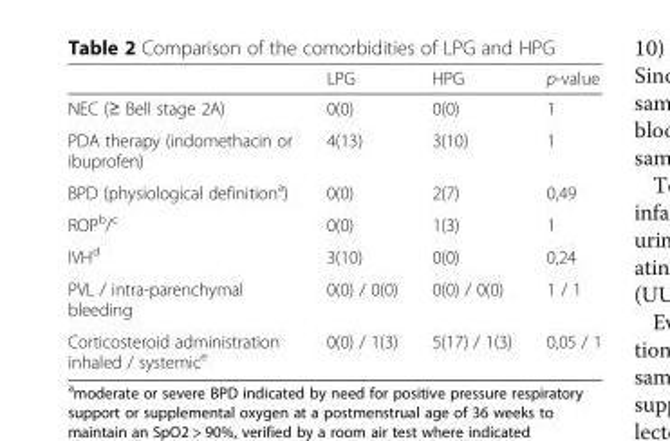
<table><thead><tr><td></td><td>LPG</td><td>HPG</td><td>p-value</td></tr></thead><tbody><tr><td>NEC (≥ Bell stage 2A)</td><td>0(0)</td><td>0(0)</td><td>1</td></tr><tr><td>PDA therapy (indomethacin or ibuprofen)</td><td>4(13)</td><td>3(10)</td><td>1</td></tr><tr><td>BPD (physiological definition<sup>a</sup>)</td><td>0(0)</td><td>2(7)</td><td>0,49</td></tr><tr><td>ROP<sup>b</sup>/<sup>c</sup></td><td>0(0)</td><td>1(3)</td><td>1</td></tr><tr><td>IVH<sup>d</sup></td><td>3(10)</td><td>0(0)</td><td>0,24</td></tr><tr><td>PVL / intra-parenchymal bleeding</td><td>0(0) / 0(0)</td><td>0(0) / 0(0)</td><td>1 / 1</td></tr><tr><td>Corticosteroid administration inhaled / systemic<sup>e</sup></td><td>0(0) / 1(3)</td><td>5(17) / 1(3)</td><td>0,05 / 1</td></tr></tbody></table>